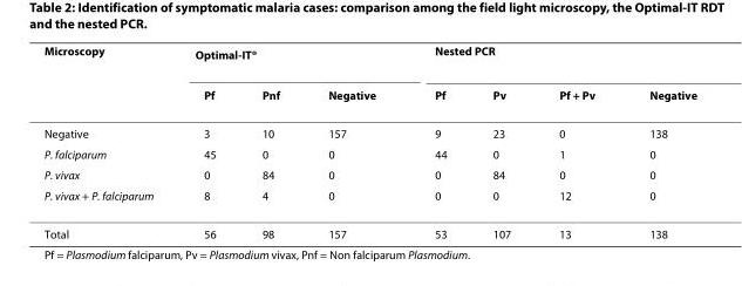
<table><thead><tr><td rowspan="2">Microscopy</td><td colspan="3">Optimal-IT<sup>®</sup></td><td colspan="4">Nested PCR</td></tr><tr><td>Pf</td><td>Pnf</td><td>Negative</td><td>Pf</td><td>Pv</td><td>Pf + Pv</td><td>Negative</td></tr></thead><tbody><tr><td>Negative</td><td>3</td><td>10</td><td>157</td><td>9</td><td>23</td><td>0</td><td>138</td></tr><tr><td>P. falciparum</td><td>45</td><td>0</td><td>0</td><td>44</td><td>0</td><td>1</td><td>0</td></tr><tr><td>P. vivax</td><td>0</td><td>84</td><td>0</td><td>0</td><td>84</td><td>0</td><td>0</td></tr><tr><td>P. vivax + P. falciparum</td><td>8</td><td>4</td><td>0</td><td>0</td><td>0</td><td>12</td><td>0</td></tr><tr><td>Total</td><td>56</td><td>98</td><td>157</td><td>53</td><td>107</td><td>13</td><td>138</td></tr></tbody></table>